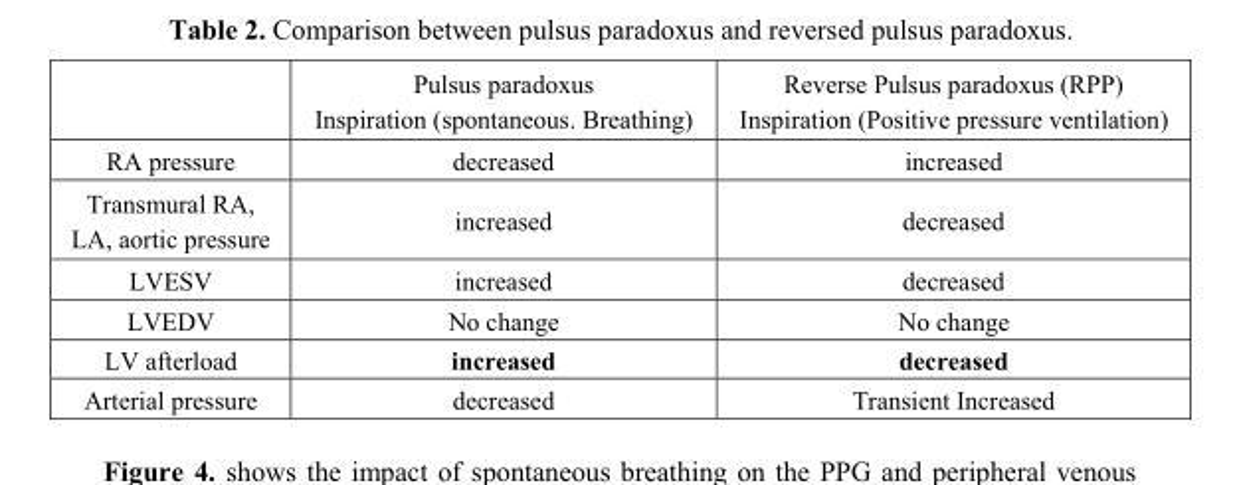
<table><thead><tr><td></td><td>Pulsus paradoxus Inspiration (spontaneous. Breathing)</td><td>Reverse Pulsus paradoxus (RPP) Inspiration (Positive pressure ventilation)</td></tr></thead><tbody><tr><td>RA pressure</td><td>decreased</td><td>increased</td></tr><tr><td>Transmural RA, LA, aortic pressure</td><td>increased</td><td>decreased</td></tr><tr><td>LVESV</td><td>increased</td><td>decreased</td></tr><tr><td>LVEDV</td><td>No change</td><td>No change</td></tr><tr><td>LV afterload</td><td>increased</td><td>decreased</td></tr><tr><td>Arterial pressure</td><td>decreased</td><td>Transient Increased</td></tr></tbody></table>